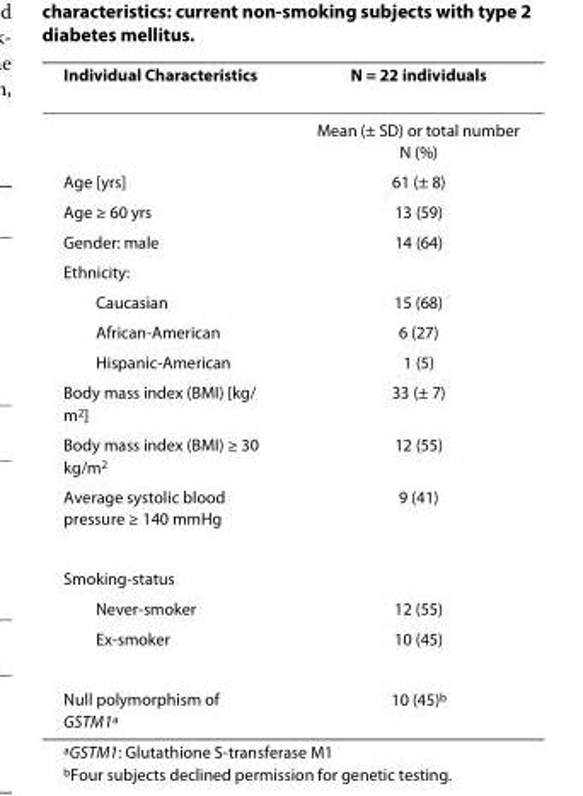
<table><thead><tr><td>Individual Characteristics</td><td>N = 22 individuals</td></tr></thead><tbody><tr><td></td><td>Mean (± SD) or total number N (%)</td></tr><tr><td>Age [yrs]</td><td>61 (± 8)</td></tr><tr><td>Age ≥ 60 yrs</td><td>13 (59)</td></tr><tr><td>Gender: male</td><td>14 (64)</td></tr><tr><td colspan="2">Ethnicity:</td></tr><tr><td>Caucasian</td><td>15 (68)</td></tr><tr><td>African-American</td><td>6 (27)</td></tr><tr><td>Hispanic-American</td><td>1 (5)</td></tr><tr><td>Body mass index (BMI) [kg/ m<sup>2</sup>]</td><td>33 (± 7)</td></tr><tr><td>Body mass index (BMI) ≥ 30 kg/m<sup>2</sup></td><td>12 (55)</td></tr><tr><td>Average systolic blood pressure ≥ 140 mmHg</td><td>9 (41)</td></tr><tr><td colspan="2">Smoking-status</td></tr><tr><td>Never-smoker</td><td>12 (55)</td></tr><tr><td>Ex-smoker</td><td>10 (45)</td></tr><tr><td>Null polymorphism of GSTM1<sup>a</sup></td><td>10 (45)<sup>b</sup></td></tr></tbody></table>